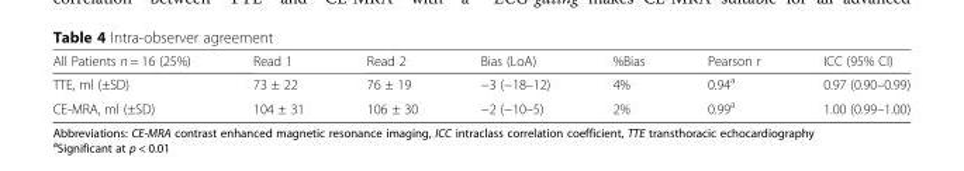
<table><thead><tr><td>All Patients n = 16 (25%)</td><td>Read 1</td><td>Read 2</td><td>Bias (LoA)</td><td>%Bias</td><td>Pearson r</td><td>ICC (95% CI)</td></tr></thead><tbody><tr><td>TTE, ml (±SD)</td><td>73 ± 22</td><td>76 ± 19</td><td>−3 (−18–12)</td><td>4%</td><td>0.94<sup>a</sup></td><td>0.97 (0.90–0.99)</td></tr><tr><td>CE-MRA, ml (±SD)</td><td>104 ± 31</td><td>106 ± 30</td><td>−2 (−10–5)</td><td>2%</td><td>0.99<sup>a</sup></td><td>1.00 (0.99–1.00)</td></tr></tbody></table>